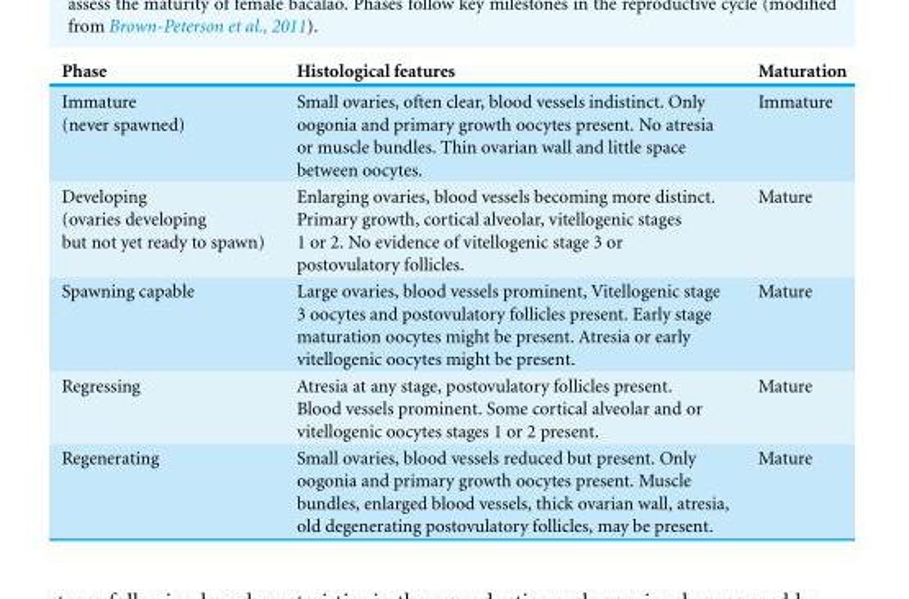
<table><thead><tr><td>Phase</td><td>Histological features</td><td>Maturation</td></tr></thead><tbody><tr><td>Immature (never spawned)</td><td>Small ovaries, often clear, blood vessels indistinct. Only oogonia and primary growth oocytes present. No atresia or muscle bundles. Thin ovarian wall and little space between oocytes.</td><td>Immature</td></tr><tr><td>Developing (ovaries developing but not yet ready to spawn)</td><td>Enlarging ovaries, blood vessels becoming more distinct. Primary growth, cortical alveolar, vitellogenic stages 1 or 2. No evidence of vitellogenic stage 3 or postovulatory follicles.</td><td>Mature</td></tr><tr><td>Spawning capable</td><td>Large ovaries, blood vessels prominent, Vitellogenic stage 3 oocytes and postovulatory follicles present. Early stage maturation oocytes might be present. Atresia or early vitellogenic oocytes might be present.</td><td>Mature</td></tr><tr><td>Regressing</td><td>Atresia at any stage, postovulatory follicles present. Blood vessels prominent. Some cortical alveolar and or vitellogenic oocytes stages 1 or 2 present.</td><td>Mature</td></tr><tr><td>Regenerating</td><td>Small ovaries, blood vessels reduced but present. Only oogonia and primary growth oocytes present. Muscle bundles, enlarged blood vessels, thick ovarian wall, atresia, old degenerating postovulatory follicles, may be present.</td><td>Mature</td></tr></tbody></table>